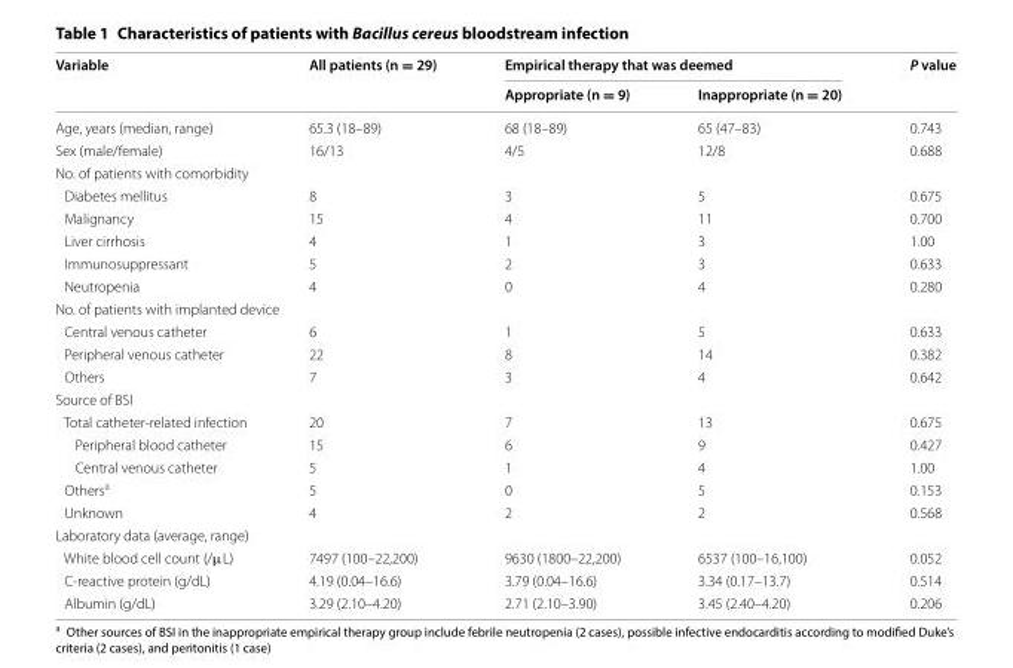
<table><thead><tr><td rowspan="2">Variable</td><td rowspan="2">All patients (n = 29)</td><td colspan="2">Empirical therapy that was deemed</td><td rowspan="2">P value</td></tr><tr><td>Appropriate (n = 9)</td><td>Inappropriate (n = 20)</td></tr></thead><tbody><tr><td>Age, years (median, range)</td><td>65.3 (18–89)</td><td>68 (18–89)</td><td>65 (47–83)</td><td>0.743</td></tr><tr><td>Sex (male/female)</td><td>16/13</td><td>4/5</td><td>12/8</td><td>0.688</td></tr><tr><td colspan="5">No. of patients with comorbidity</td></tr><tr><td>Diabetes mellitus</td><td>8</td><td>3</td><td>5</td><td>0.675</td></tr><tr><td>Malignancy</td><td>15</td><td>4</td><td>11</td><td>0.700</td></tr><tr><td>Liver cirrhosis</td><td>4</td><td>1</td><td>3</td><td>1.00</td></tr><tr><td>Immunosuppressant</td><td>5</td><td>2</td><td>3</td><td>0.633</td></tr><tr><td>Neutropenia</td><td>4</td><td>0</td><td>4</td><td>0.280</td></tr><tr><td colspan="5">No. of patients with implanted device</td></tr><tr><td>Central venous catheter</td><td>6</td><td>1</td><td>5</td><td>0.633</td></tr><tr><td>Peripheral venous catheter</td><td>22</td><td>8</td><td>14</td><td>0.382</td></tr><tr><td>Others</td><td>7</td><td>3</td><td>4</td><td>0.642</td></tr><tr><td colspan="5">Source of BSI</td></tr><tr><td>Total catheter-related infection</td><td>20</td><td>7</td><td>13</td><td>0.675</td></tr><tr><td>Peripheral blood catheter</td><td>15</td><td>6</td><td>9</td><td>0.427</td></tr><tr><td>Central venous catheter</td><td>5</td><td>1</td><td>4</td><td>1.00</td></tr><tr><td>Others<sup>a</sup></td><td>5</td><td>0</td><td>5</td><td>0.153</td></tr><tr><td>Unknown</td><td>4</td><td>2</td><td>2</td><td>0.568</td></tr><tr><td colspan="5">Laboratory data (average, range)</td></tr><tr><td>White blood cell count (/μL)</td><td>7497 (100–22,200)</td><td>9630 (1800–22,200)</td><td>6537 (100–16,100)</td><td>0.052</td></tr><tr><td>C-reactive protein (g/dL)</td><td>4.19 (0.04–16.6)</td><td>3.79 (0.04–16.6)</td><td>3.34 (0.17–13.7)</td><td>0.514</td></tr><tr><td>Albumin (g/dL)</td><td>3.29 (2.10–4.20)</td><td>2.71 (2.10–3.90)</td><td>3.45 (2.40–4.20)</td><td>0.206</td></tr></tbody></table>